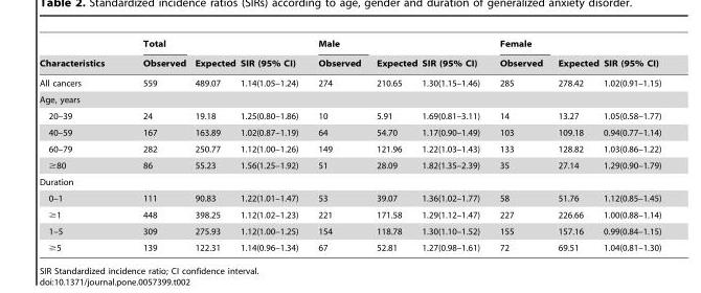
<table><thead><tr><td rowspan="2">Characteristics</td><td rowspan="2">Total Observed</td><td rowspan="2">Expected</td><td rowspan="2">SIR (95% CI)</td><td rowspan="2">Male Observed</td><td rowspan="2">Expected</td><td rowspan="2">SIR (95% CI)</td><td rowspan="2">Female Observed</td><td rowspan="2">Expected</td><td rowspan="2">SIR (95% CI)</td></tr><tr></tr></thead><tbody><tr><td>All cancers</td><td>559</td><td>489.07</td><td>1.14(1.05–1.24)</td><td>274</td><td>210.65</td><td>1.30(1.15–1.46)</td><td>285</td><td>278.42</td><td>1.02(0.91–1.15)</td></tr><tr><td colspan="10">Age, years</td></tr><tr><td>20–39</td><td>24</td><td>19.18</td><td>1.25(0.80–1.86)</td><td>10</td><td>5.91</td><td>1.69(0.81–3.11)</td><td>14</td><td>13.27</td><td>1.05(0.58–1.77)</td></tr><tr><td>40–59</td><td>167</td><td>163.89</td><td>1.02(0.87–1.19)</td><td>64</td><td>54.70</td><td>1.17(0.90–1.49)</td><td>103</td><td>109.18</td><td>0.94(0.77–1.14)</td></tr><tr><td>60–79</td><td>282</td><td>250.77</td><td>1.12(1.00–1.26)</td><td>149</td><td>121.96</td><td>1.22(1.03–1.43)</td><td>133</td><td>128.82</td><td>1.03(0.86–1.22)</td></tr><tr><td>≥80</td><td>86</td><td>55.23</td><td>1.56(1.25–1.92)</td><td>51</td><td>28.09</td><td>1.82(1.35–2.39)</td><td>35</td><td>27.14</td><td>1.29(0.90–1.79)</td></tr><tr><td colspan="10">Duration</td></tr><tr><td>0–1</td><td>111</td><td>90.83</td><td>1.22(1.01–1.47)</td><td>53</td><td>39.07</td><td>1.36(1.02–1.77)</td><td>58</td><td>51.76</td><td>1.12(0.85–1.45)</td></tr><tr><td>≥1</td><td>448</td><td>398.25</td><td>1.12(1.02–1.23)</td><td>221</td><td>171.58</td><td>1.29(1.12–1.47)</td><td>227</td><td>226.66</td><td>1.00(0.88–1.14)</td></tr><tr><td>1–5</td><td>309</td><td>275.93</td><td>1.12(1.00–1.25)</td><td>154</td><td>118.78</td><td>1.30(1.10–1.52)</td><td>155</td><td>157.16</td><td>0.99(0.84–1.15)</td></tr><tr><td>≥5</td><td>139</td><td>122.31</td><td>1.14(0.96–1.34)</td><td>67</td><td>52.81</td><td>1.27(0.98–1.61)</td><td>72</td><td>69.51</td><td>1.04(0.81–1.30)</td></tr></tbody></table>